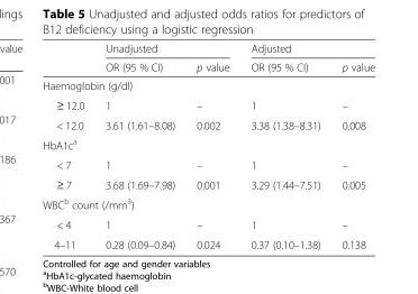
<table><thead><tr><td rowspan="2"></td><td colspan="2">Unadjusted</td><td colspan="2">Adjusted</td></tr><tr><td>OR (95 % CI)</td><td>p value</td><td>OR (95 % CI)</td><td>p value</td></tr></thead><tbody><tr><td colspan="5">Haemoglobin (g/dl)</td></tr><tr><td>≥ 12.0</td><td>1</td><td>–</td><td>1</td><td>–</td></tr><tr><td>&lt; 12.0</td><td>3.61 (1.61–8.08)</td><td>0.002</td><td>3.38 (1.38–8.31)</td><td>0.008</td></tr><tr><td colspan="5">HbA1c<sup>a</sup></td></tr><tr><td>&lt; 7</td><td>1</td><td>–</td><td>1</td><td>–</td></tr><tr><td>≥ 7</td><td>3.68 (1.69–7.98)</td><td>0.001</td><td>3.29 (1.44–7.51)</td><td>0.005</td></tr><tr><td colspan="5">WBC<sup>b</sup> count (/mm<sup>3</sup>)</td></tr><tr><td>&lt; 4</td><td>1</td><td>–</td><td>1</td><td>–</td></tr><tr><td>4–11</td><td>0.28 (0.09–0.84)</td><td>0.024</td><td>0.37 (0.10–1.38)</td><td>0.138</td></tr></tbody></table>